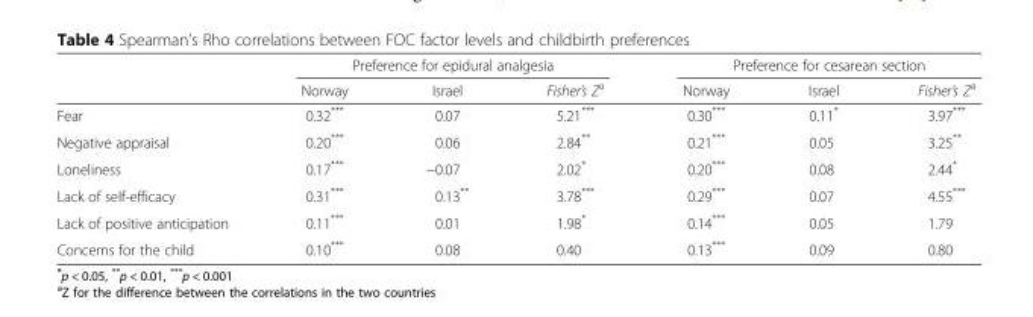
<table><thead><tr><td rowspan="2"></td><td colspan="3">Preference for epidural analgesia</td><td colspan="3">Preference for cesarean section</td></tr><tr><td>Norway</td><td>Israel</td><td>Fisher’s Z<sup>a</sup></td><td>Norway</td><td>Israel</td><td>Fisher’s Z<sup>a</sup></td></tr></thead><tbody><tr><td>Fear</td><td>0.32***</td><td>0.07</td><td>5.21***</td><td>0.30***</td><td>0.11*</td><td>3.97***</td></tr><tr><td>Negative appraisal</td><td>0.20***</td><td>0.06</td><td>2.84**</td><td>0.21***</td><td>0.05</td><td>3.25**</td></tr><tr><td>Loneliness</td><td>0.17***</td><td>−0.07</td><td>2.02*</td><td>0.20***</td><td>0.08</td><td>2.44*</td></tr><tr><td>Lack of self-efficacy</td><td>0.31***</td><td>0.13**</td><td>3.78***</td><td>0.29***</td><td>0.07</td><td>4.55***</td></tr><tr><td>Lack of positive anticipation</td><td>0.11***</td><td>0.01</td><td>1.98*</td><td>0.14***</td><td>0.05</td><td>1.79</td></tr><tr><td>Concerns for the child</td><td>0.10***</td><td>0.08</td><td>0.40</td><td>0.13***</td><td>0.09</td><td>0.80</td></tr></tbody></table>